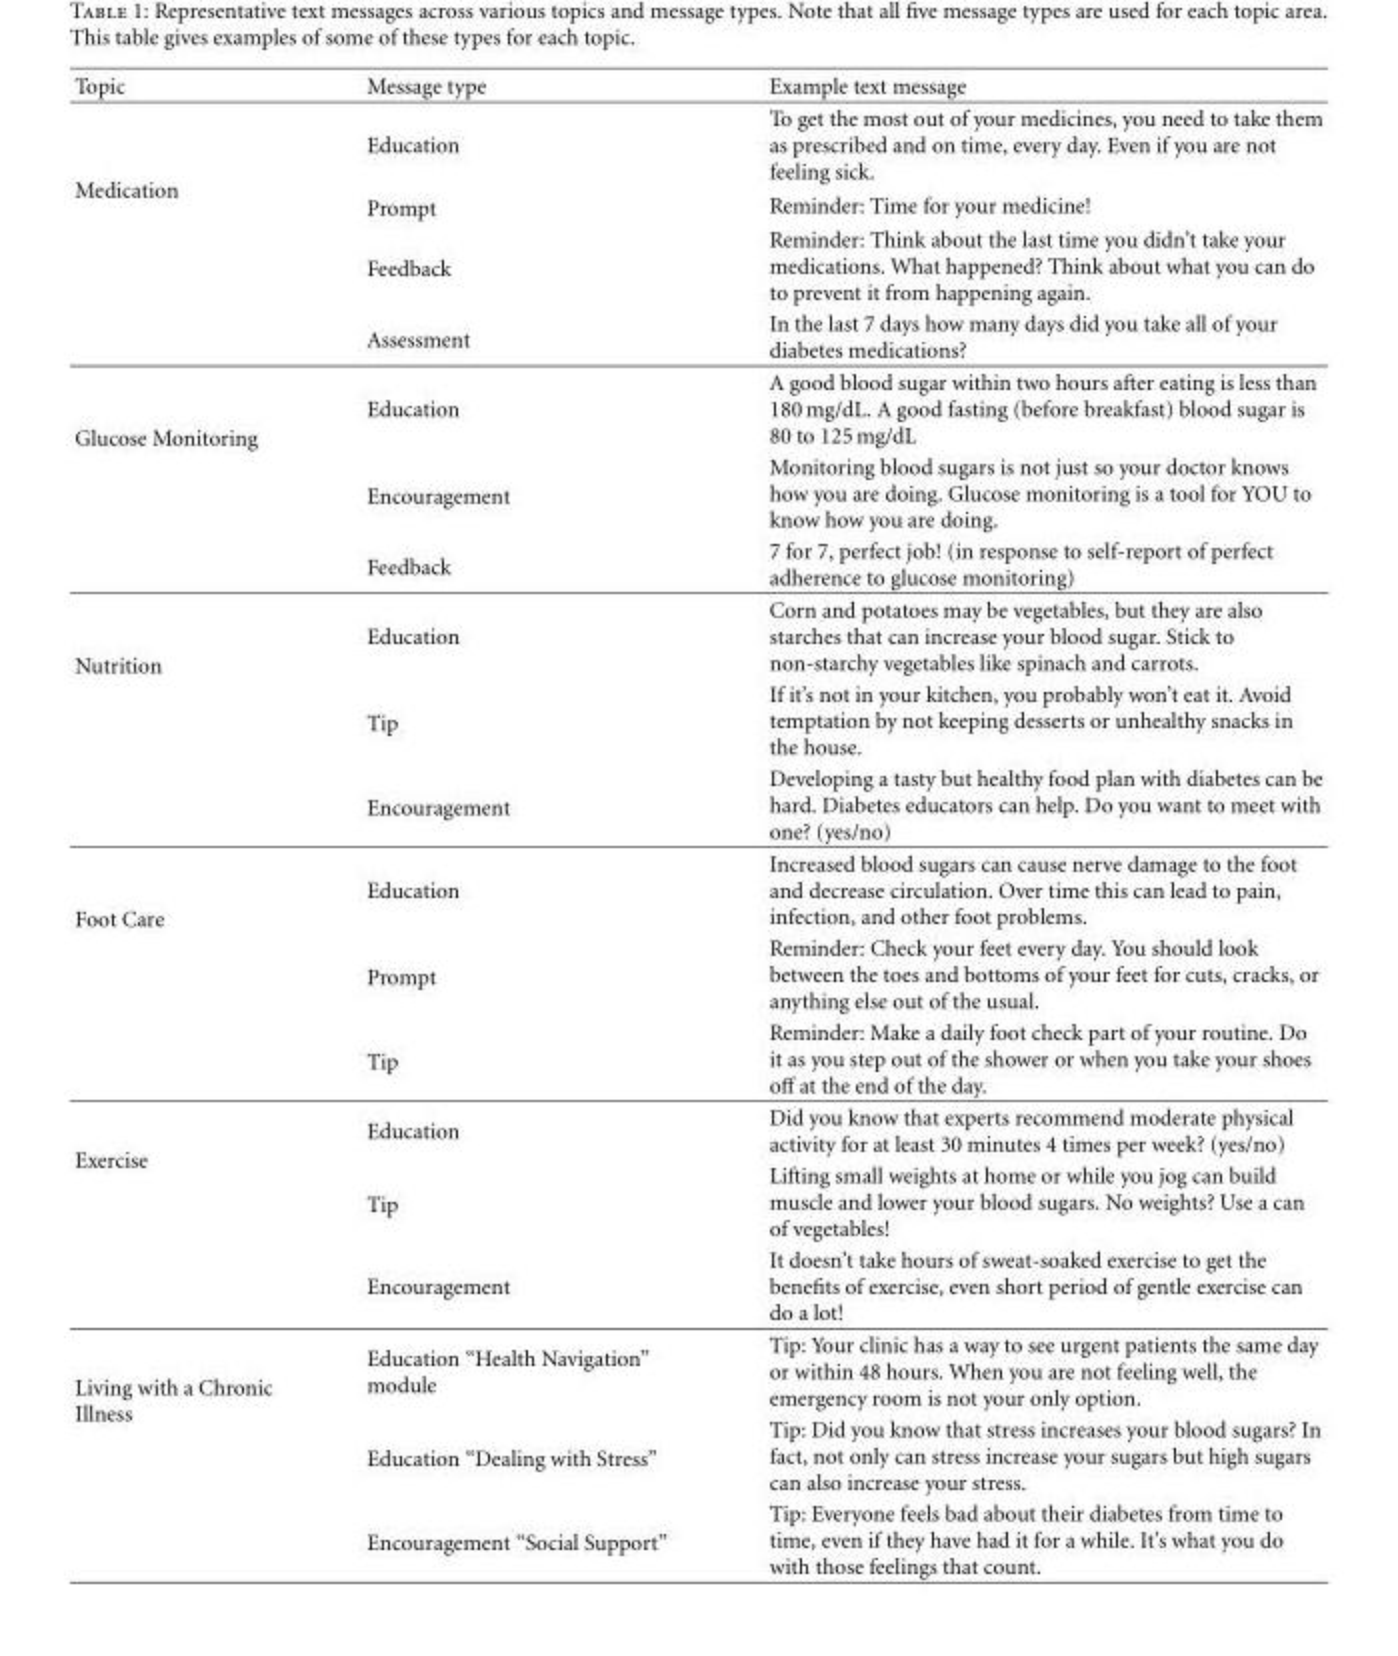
<table><thead><tr><td>Topic</td><td>Message type</td><td>Example text message</td></tr></thead><tbody><tr><td rowspan="4">Medication</td><td>Education</td><td>To get the most out of your medicines, you need to take them as prescribed and on time, every day. Even if you are not feeling sick.</td></tr><tr><td>Prompt</td><td>Reminder: Time for your medicine!</td></tr><tr><td>Feedback</td><td>Reminder: Think about the last time you didn’t take your medications. What happened? Think about what you can do to prevent it from happening again.</td></tr><tr><td>Assessment</td><td>In the last 7 days how many days did you take all of your diabetes medications?</td></tr><tr><td rowspan="3">Glucose Monitoring</td><td>Education</td><td>A good blood sugar within two hours after eating is less than 180 mg/dL. A good fasting (before breakfast) blood sugar is 80 to 125 mg/dL</td></tr><tr><td>Encouragement</td><td>Monitoring blood sugars is not just so your doctor knows how you are doing. Glucose monitoring is a tool for YOU to know how you are doing.</td></tr><tr><td>Feedback</td><td>7 for 7, perfect job! (in response to self-report of perfect adherence to glucose monitoring)</td></tr><tr><td rowspan="3">Nutrition</td><td>Education</td><td>Corn and potatoes may be vegetables, but they are also starches that can increase your blood sugar. Stick to non-starchy vegetables like spinach and carrots.</td></tr><tr><td>Tip</td><td>If it’s not in your kitchen, you probably won’t eat it. Avoid temptation by not keeping desserts or unhealthy snacks in the house.</td></tr><tr><td>Encouragement</td><td>Developing a tasty but healthy food plan with diabetes can be hard. Diabetes educators can help. Do you want to meet with one? (yes/no)</td></tr><tr><td rowspan="3">Foot Care</td><td>Education</td><td>Increased blood sugars can cause nerve damage to the foot and decrease circulation. Over time this can lead to pain, infection, and other foot problems.</td></tr><tr><td>Prompt</td><td>Reminder: Check your feet every day. You should look between the toes and bottoms of your feet for cuts, cracks, or anything else out of the usual.</td></tr><tr><td>Tip</td><td>Reminder: Make a daily foot check part of your routine. Do it as you step out of the shower or when you take your shoes off at the end of the day.</td></tr><tr><td rowspan="3">Exercise</td><td>Education</td><td>Did you know that experts recommend moderate physical activity for at least 30 minutes 4 times per week? (yes/no)</td></tr><tr><td>Tip</td><td>Lifting small weights at home or while you jog can build muscle and lower your blood sugars. No weights? Use a can of vegetables!</td></tr><tr><td>Encouragement</td><td>It doesn’t take hours of sweat-soaked exercise to get the benefits of exercise, even short period of gentle exercise can do a lot!</td></tr><tr><td rowspan="3">Living with a Chronic Illness</td><td>Education “Health Navigation” module</td><td>Tip: Your clinic has a way to see urgent patients the same day or within 48 hours. When you are not feeling well, the emergency room is not your only option.</td></tr><tr><td>Education “Dealing with Stress”</td><td>Tip: Did you know that stress increases your blood sugars? In fact, not only can stress increase your sugars but high sugars can also increase your stress.</td></tr><tr><td>Encouragement “Social Support”</td><td>Tip: Everyone feels bad about their diabetes from time to time, even if they have had it for a while. It’s what you do with those feelings that count.</td></tr></tbody></table>